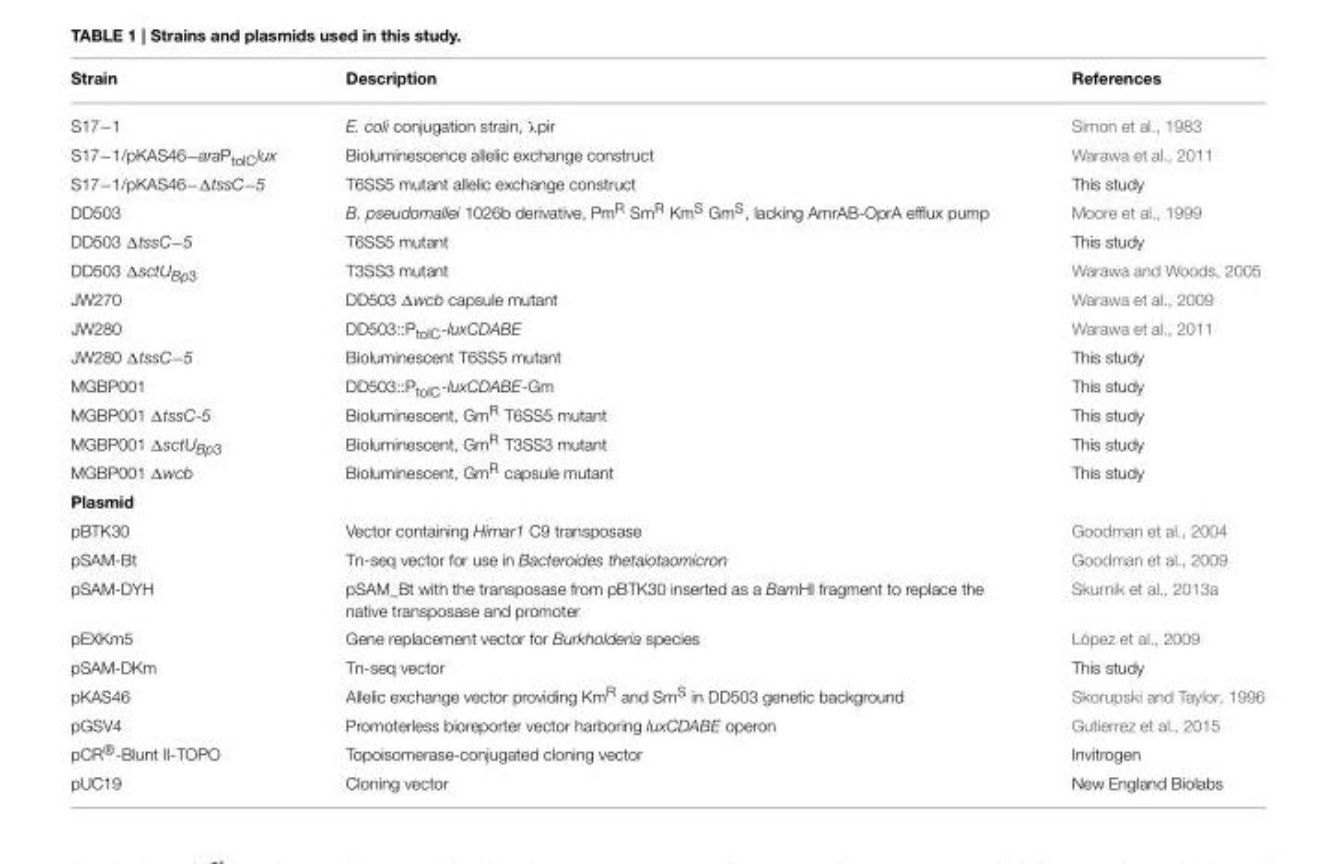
<table><thead><tr><td>Strain</td><td>Description</td><td>References</td></tr></thead><tbody><tr><td>S17−1</td><td>E. coli conjugation strain, λpir</td><td>Simon et al., 1983</td></tr><tr><td>S17−1/pKAS46−araP<sub>tolC</sub>lux</td><td>Bioluminescence allelic exchange construct</td><td>Warawa et al., 2011</td></tr><tr><td>S17−1/pKAS46−ΔtssC−5</td><td>T6SS5 mutant allelic exchange construct</td><td>This study</td></tr><tr><td>DD503</td><td>B. pseudomallei 1026b derivative, Pm<sup>R</sup> Sm<sup>R</sup> Km<sup>S</sup> Gm<sup>S</sup>, lacking AmrAB-OprA efflux pump</td><td>Moore et al., 1999</td></tr><tr><td>DD503 ΔtssC−5</td><td>T6SS5 mutant</td><td>This study</td></tr><tr><td>DD503 ΔsctUBp3</td><td>T3SS3 mutant</td><td>Warawa and Woods, 2005</td></tr><tr><td>JW270</td><td>DD503 Δwcb capsule mutant</td><td>Warawa et al., 2009</td></tr><tr><td>JW280</td><td>DD503::P<sub>tolC</sub>-luxCDABE</td><td>Warawa et al., 2011</td></tr><tr><td>JW280 ΔtssC−5</td><td>Bioluminescent T6SS5 mutant</td><td>This study</td></tr><tr><td>MGBP001</td><td>DD503::P<sub>tolC</sub>-luxCDABE-Gm</td><td>This study</td></tr><tr><td>MGBP001 ΔtssC-5</td><td>Bioluminescent, Gm<sup>R</sup> T6SS5 mutant</td><td>This study</td></tr><tr><td>MGBP001 ΔsctUBp3</td><td>Bioluminescent, Gm<sup>R</sup> T3SS3 mutant</td><td>This study</td></tr><tr><td>MGBP001 Δwcb</td><td>Bioluminescent, Gm<sup>R</sup> capsule mutant</td><td>This study</td></tr><tr><td colspan="3">Plasmid</td></tr><tr><td>pBTK30</td><td>Vector containing Himar1 C9 transposase</td><td>Goodman et al., 2004</td></tr><tr><td>pSAM-Bt</td><td>Tn-seq vector for use in Bacteroides thetaiotaomicron</td><td>Goodman et al., 2009</td></tr><tr><td>pSAM-DYH</td><td>pSAM_Bt with the transposase from pBTK30 inserted as a BamHI fragment to replace the native transposase and promoter</td><td>Skurnik et al., 2013a</td></tr><tr><td>pEXKm5</td><td>Gene replacement vector for Burkholderia species</td><td>López et al., 2009</td></tr><tr><td>pSAM-DKm</td><td>Tn-seq vector</td><td>This study</td></tr><tr><td>pKAS46</td><td>Allelic exchange vector providing Km<sup>R</sup> and Sm<sup>S</sup> in DD503 genetic background</td><td>Skorupski and Taylor, 1996</td></tr><tr><td>pGSV4</td><td>Promoterless bioreporter vector harboring luxCDABE operon</td><td>Gutierrez et al., 2015</td></tr><tr><td>pCR®-Blunt II-TOPO</td><td>Topoisomerase-conjugated cloning vector</td><td>Invitrogen</td></tr><tr><td>pUC19</td><td>Cloning vector</td><td>New England Biolabs</td></tr></tbody></table>